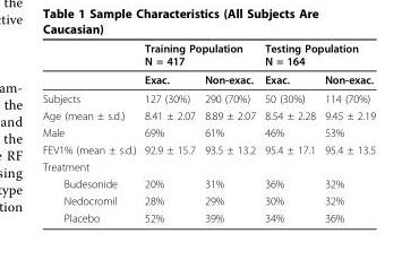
<table><thead><tr><td rowspan="2"></td><td colspan="2">Training Population N = 417</td><td colspan="2">Testing Population N = 164</td></tr><tr><td>Exac.</td><td>Non-exac.</td><td>Exac.</td><td>Non-exac.</td></tr></thead><tbody><tr><td>Subjects</td><td>127 (30%)</td><td>290 (70%)</td><td>50 (30%)</td><td>114 (70%)</td></tr><tr><td>Age (mean ± s.d.)</td><td>8.41 ± 2.07</td><td>8.89 ± 2.07</td><td>8.54 ± 2.28</td><td>9.45 ± 2.19</td></tr><tr><td>Male</td><td>69%</td><td>61%</td><td>46%</td><td>53%</td></tr><tr><td>FEV1% (mean ± s.d.)</td><td>92.9 ± 15.7</td><td>93.5 ± 13.2</td><td>95.4 ± 17.1</td><td>95.4 ± 13.5</td></tr><tr><td colspan="5">Treatment</td></tr><tr><td>Budesonide</td><td>20%</td><td>31%</td><td>36%</td><td>32%</td></tr><tr><td>Nedocromil</td><td>28%</td><td>29%</td><td>30%</td><td>32%</td></tr><tr><td>Placebo</td><td>52%</td><td>39%</td><td>34%</td><td>36%</td></tr></tbody></table>